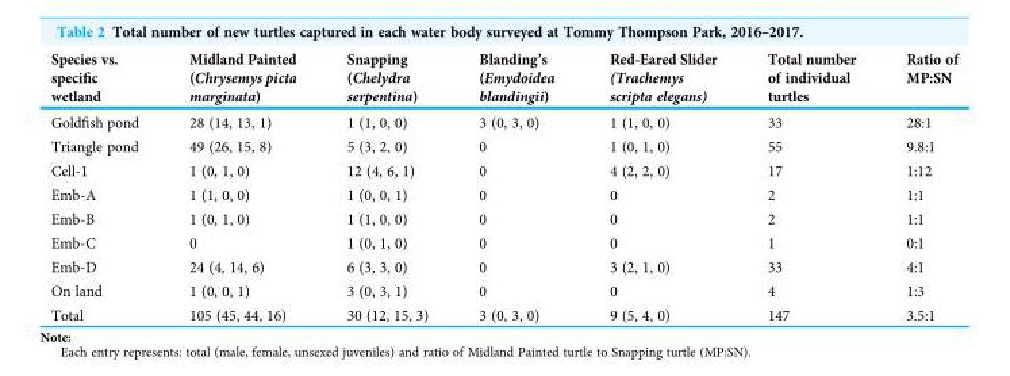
<table><thead><tr><td>Species vs. specific wetland</td><td>Midland Painted (Chrysemys picta marginata)</td><td>Snapping (Chelydra serpentina)</td><td>Blanding’s (Emydoidea blandingii)</td><td>Red-Eared Slider (Trachemys scripta elegans)</td><td>Total number of individual turtles</td><td>Ratio of MP:SN</td></tr></thead><tbody><tr><td>Goldfish pond</td><td>28 (14, 13, 1)</td><td>1 (1, 0, 0)</td><td>3 (0, 3, 0)</td><td>1 (1, 0, 0)</td><td>33</td><td>28:1</td></tr><tr><td>Triangle pond</td><td>49 (26, 15, 8)</td><td>5 (3, 2, 0)</td><td>0</td><td>1 (0, 1, 0)</td><td>55</td><td>9.8:1</td></tr><tr><td>Cell-1</td><td>1 (0, 1, 0)</td><td>12 (4, 6, 1)</td><td>0</td><td>4 (2, 2, 0)</td><td>17</td><td>1:12</td></tr><tr><td>Emb-A</td><td>1 (1, 0, 0)</td><td>1 (0, 0, 1)</td><td>0</td><td>0</td><td>2</td><td>1:1</td></tr><tr><td>Emb-B</td><td>1 (0, 1, 0)</td><td>1 (1, 0, 0)</td><td>0</td><td>0</td><td>2</td><td>1:1</td></tr><tr><td>Emb-C</td><td>0</td><td>1 (0, 1, 0)</td><td>0</td><td>0</td><td>1</td><td>0:1</td></tr><tr><td>Emb-D</td><td>24 (4, 14, 6)</td><td>6 (3, 3, 0)</td><td>0</td><td>3 (2, 1, 0)</td><td>33</td><td>4:1</td></tr><tr><td>On land</td><td>1 (0, 0, 1)</td><td>3 (0, 3, 1)</td><td>0</td><td>0</td><td>4</td><td>1:3</td></tr><tr><td>Total</td><td>105 (45, 44, 16)</td><td>30 (12, 15, 3)</td><td>3 (0, 3, 0)</td><td>9 (5, 4, 0)</td><td>147</td><td>3.5:1</td></tr></tbody></table>